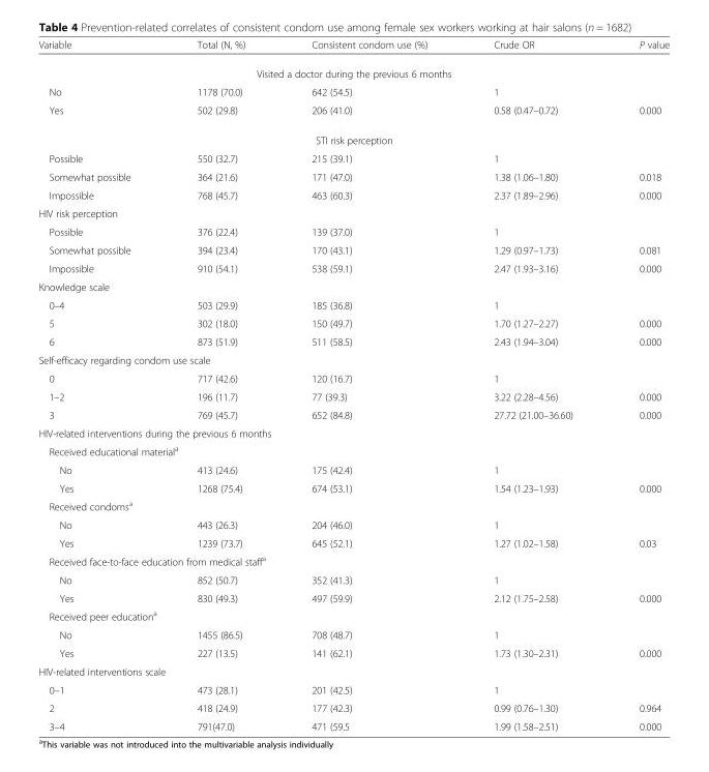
<table><thead><tr><td>Variable</td><td>Total (N, %)</td><td>Consistent condom use (%)</td><td>Crude OR</td><td>P value</td></tr></thead><tbody><tr><td colspan="5">Visited a doctor during the previous 6 months</td></tr><tr><td>No</td><td>1178 (70.0)</td><td>642 (54.5)</td><td>1</td><td></td></tr><tr><td>Yes</td><td>502 (29.8)</td><td>206 (41.0)</td><td>0.58 (0.47–0.72)</td><td>0.000</td></tr><tr><td colspan="5">STI risk perception</td></tr><tr><td>Possible</td><td>550 (32.7)</td><td>215 (39.1)</td><td>1</td><td></td></tr><tr><td>Somewhat possible</td><td>364 (21.6)</td><td>171 (47.0)</td><td>1.38 (1.06–1.80)</td><td>0.018</td></tr><tr><td>Impossible</td><td>768 (45.7)</td><td>463 (60.3)</td><td>2.37 (1.89–2.96)</td><td>0.000</td></tr><tr><td colspan="5">HIV risk perception</td></tr><tr><td>Possible</td><td>376 (22.4)</td><td>139 (37.0)</td><td>1</td><td></td></tr><tr><td>Somewhat possible</td><td>394 (23.4)</td><td>170 (43.1)</td><td>1.29 (0.97–1.73)</td><td>0.081</td></tr><tr><td>Impossible</td><td>910 (54.1)</td><td>538 (59.1)</td><td>2.47 (1.93–3.16)</td><td>0.000</td></tr><tr><td colspan="5">Knowledge scale</td></tr><tr><td>0–4</td><td>503 (29.9)</td><td>185 (36.8)</td><td>1</td><td></td></tr><tr><td>5</td><td>302 (18.0)</td><td>150 (49.7)</td><td>1.70 (1.27–2.27)</td><td>0.000</td></tr><tr><td>6</td><td>873 (51.9)</td><td>511 (58.5)</td><td>2.43 (1.94–3.04)</td><td>0.000</td></tr><tr><td colspan="5">Self-efficacy regarding condom use scale</td></tr><tr><td>0</td><td>717 (42.6)</td><td>120 (16.7)</td><td>1</td><td></td></tr><tr><td>1–2</td><td>196 (11.7)</td><td>77 (39.3)</td><td>3.22 (2.28–4.56)</td><td>0.000</td></tr><tr><td>3</td><td>769 (45.7)</td><td>652 (84.8)</td><td>27.72 (21.00–36.60)</td><td>0.000</td></tr><tr><td colspan="5">HIV-related interventions during the previous 6 months</td></tr><tr><td colspan="5">Received educational material<sup>a</sup></td></tr><tr><td>No</td><td>413 (24.6)</td><td>175 (42.4)</td><td>1</td><td></td></tr><tr><td>Yes</td><td>1268 (75.4)</td><td>674 (53.1)</td><td>1.54 (1.23–1.93)</td><td>0.000</td></tr><tr><td colspan="5">Received condoms<sup>a</sup></td></tr><tr><td>No</td><td>443 (26.3)</td><td>204 (46.0)</td><td>1</td><td></td></tr><tr><td>Yes</td><td>1239 (73.7)</td><td>645 (52.1)</td><td>1.27 (1.02–1.58)</td><td>0.03</td></tr><tr><td colspan="5">Received face-to-face education from medical staff<sup>a</sup></td></tr><tr><td>No</td><td>852 (50.7)</td><td>352 (41.3)</td><td>1</td><td></td></tr><tr><td>Yes</td><td>830 (49.3)</td><td>497 (59.9)</td><td>2.12 (1.75–2.58)</td><td>0.000</td></tr><tr><td colspan="5">Received peer education<sup>a</sup></td></tr><tr><td>No</td><td>1455 (86.5)</td><td>708 (48.7)</td><td>1</td><td></td></tr><tr><td>Yes</td><td>227 (13.5)</td><td>141 (62.1)</td><td>1.73 (1.30–2.31)</td><td>0.000</td></tr><tr><td colspan="5">HIV-related interventions scale</td></tr><tr><td>0–1</td><td>473 (28.1)</td><td>201 (42.5)</td><td>1</td><td></td></tr><tr><td>2</td><td>418 (24.9)</td><td>177 (42.3)</td><td>0.99 (0.76–1.30)</td><td>0.964</td></tr><tr><td>3–4</td><td>791(47.0)</td><td>471 (59.5</td><td>1.99 (1.58–2.51)</td><td>0.000</td></tr></tbody></table>